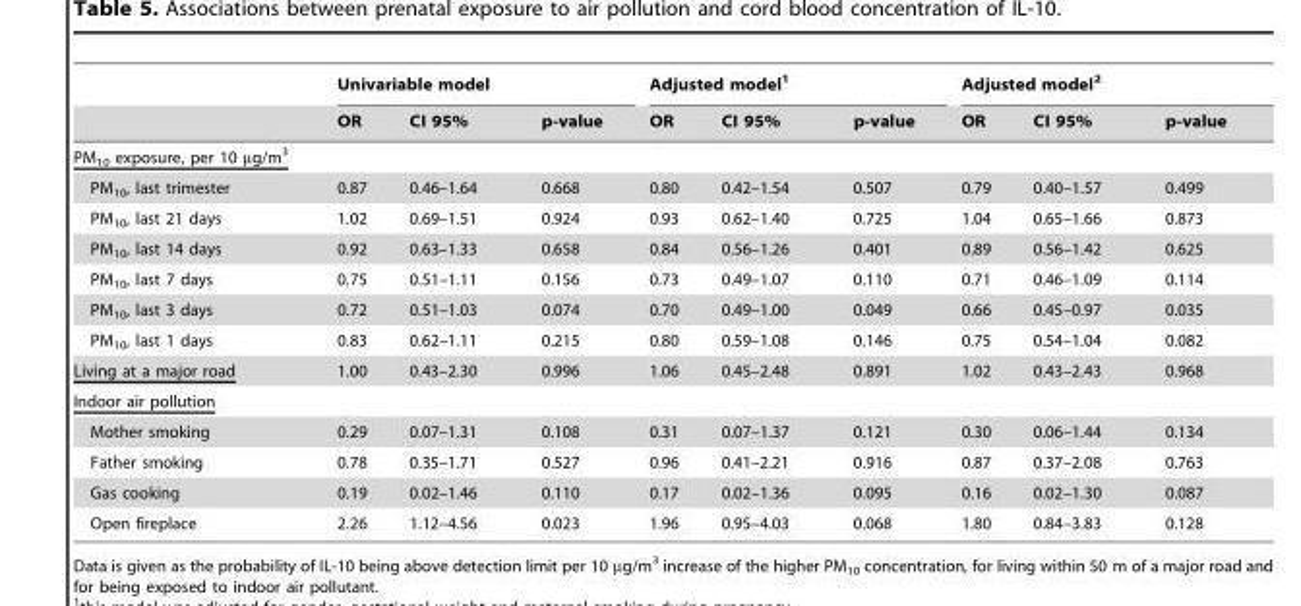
<table><thead><tr><td rowspan="2"></td><td colspan="3">Univariable model</td><td colspan="3">Adjusted model<sup>1</sup></td><td colspan="3">Adjusted model<sup>2</sup></td></tr><tr><td>OR</td><td>CI 95%</td><td>p-value</td><td>OR</td><td>CI 95%</td><td>p-value</td><td>OR</td><td>CI 95%</td><td>p-value</td></tr></thead><tbody><tr><td colspan="10">PM<sub>10</sub> exposure, per 10 µg/m<sup>3</sup></td></tr><tr><td>PM<sub>10</sub>, last trimester</td><td>0.87</td><td>0.46–1.64</td><td>0.668</td><td>0.80</td><td>0.42–1.54</td><td>0.507</td><td>0.79</td><td>0.40–1.57</td><td>0.499</td></tr><tr><td>PM<sub>10</sub>, last 21 days</td><td>1.02</td><td>0.69–1.51</td><td>0.924</td><td>0.93</td><td>0.62–1.40</td><td>0.725</td><td>1.04</td><td>0.65–1.66</td><td>0.873</td></tr><tr><td>PM<sub>10</sub>, last 14 days</td><td>0.92</td><td>0.63–1.33</td><td>0.658</td><td>0.84</td><td>0.56–1.26</td><td>0.401</td><td>0.89</td><td>0.56–1.42</td><td>0.625</td></tr><tr><td>PM<sub>10</sub>, last 7 days</td><td>0.75</td><td>0.51–1.11</td><td>0.156</td><td>0.73</td><td>0.49–1.07</td><td>0.110</td><td>0.71</td><td>0.46–1.09</td><td>0.114</td></tr><tr><td>PM<sub>10</sub>, last 3 days</td><td>0.72</td><td>0.51–1.03</td><td>0.074</td><td>0.70</td><td>0.49–1.00</td><td>0.049</td><td>0.66</td><td>0.45–0.97</td><td>0.035</td></tr><tr><td>PM<sub>10</sub>, last 1 days</td><td>0.83</td><td>0.62–1.11</td><td>0.215</td><td>0.80</td><td>0.59–1.08</td><td>0.146</td><td>0.75</td><td>0.54–1.04</td><td>0.082</td></tr><tr><td>Living at a major road</td><td>1.00</td><td>0.43–2.30</td><td>0.996</td><td>1.06</td><td>0.45–2.48</td><td>0.891</td><td>1.02</td><td>0.43–2.43</td><td>0.968</td></tr><tr><td colspan="10">Indoor air pollution</td></tr><tr><td>Mother smoking</td><td>0.29</td><td>0.07–1.31</td><td>0.108</td><td>0.31</td><td>0.07–1.37</td><td>0.121</td><td>0.30</td><td>0.06–1.44</td><td>0.134</td></tr><tr><td>Father smoking</td><td>0.78</td><td>0.35–1.71</td><td>0.527</td><td>0.96</td><td>0.41–2.21</td><td>0.916</td><td>0.87</td><td>0.37–2.08</td><td>0.763</td></tr><tr><td>Gas cooking</td><td>0.19</td><td>0.02–1.46</td><td>0.110</td><td>0.17</td><td>0.02–1.36</td><td>0.095</td><td>0.16</td><td>0.02–1.30</td><td>0.087</td></tr><tr><td>Open fireplace</td><td>2.26</td><td>1.12–4.56</td><td>0.023</td><td>1.96</td><td>0.95–4.03</td><td>0.068</td><td>1.80</td><td>0.84–3.83</td><td>0.128</td></tr></tbody></table>